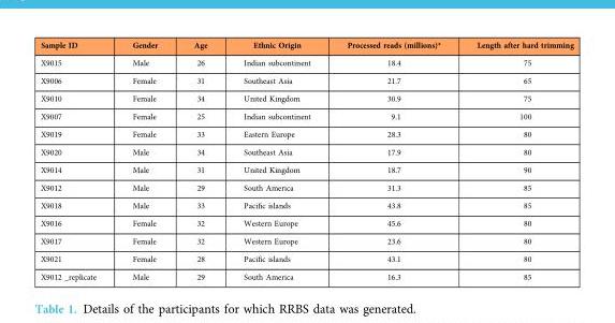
<table><thead><tr><td>Sample ID</td><td>Gender</td><td>Age</td><td>Ethnic Origin</td><td>Processed reads (millions)*</td><td>Length after hard trimming</td></tr></thead><tbody><tr><td>X9015</td><td>Male</td><td>26</td><td>Indian subcontinent</td><td>18.4</td><td>75</td></tr><tr><td>X9006</td><td>Female</td><td>31</td><td>Southeast Asia</td><td>21.7</td><td>65</td></tr><tr><td>X9010</td><td>Female</td><td>34</td><td>United Kingdom</td><td>30.9</td><td>75</td></tr><tr><td>X9007</td><td>Female</td><td>25</td><td>Indian subcontinent</td><td>9.1</td><td>100</td></tr><tr><td>X9019</td><td>Female</td><td>33</td><td>Eastern Europe</td><td>28.3</td><td>80</td></tr><tr><td>X9020</td><td>Male</td><td>34</td><td>Southeast Asia</td><td>17.9</td><td>80</td></tr><tr><td>X9014</td><td>Male</td><td>31</td><td>United Kingdom</td><td>18.7</td><td>90</td></tr><tr><td>X9012</td><td>Male</td><td>29</td><td>South America</td><td>31.3</td><td>85</td></tr><tr><td>X9018</td><td>Male</td><td>33</td><td>Pacific islands</td><td>43.8</td><td>85</td></tr><tr><td>X9016</td><td>Female</td><td>32</td><td>Western Europe</td><td>45.6</td><td>80</td></tr><tr><td>X9017</td><td>Female</td><td>32</td><td>Western Europe</td><td>23.6</td><td>80</td></tr><tr><td>X9021</td><td>Female</td><td>28</td><td>Pacific islands</td><td>43.1</td><td>80</td></tr><tr><td>X9012 _replicate</td><td>Male</td><td>29</td><td>South America</td><td>16.3</td><td>85</td></tr></tbody></table>